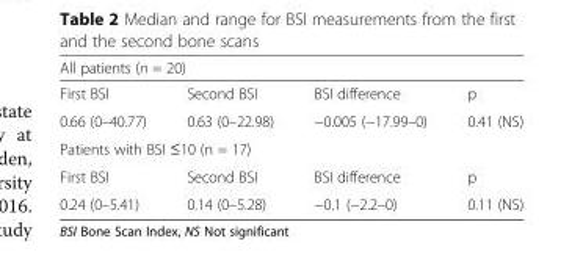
<table><thead><tr><td colspan="4">All patients (n = 20)</td></tr><tr><td>First BSI</td><td>Second BSI</td><td>BSI difference</td><td>p</td></tr></thead><tbody><tr><td>0.66 (0–40.77)</td><td>0.63 (0–22.98)</td><td>−0.005 (−17.99–0)</td><td>0.41 (NS)</td></tr><tr><td colspan="4">Patients with BSI ≤10 (n = 17)</td></tr><tr><td>First BSI</td><td>Second BSI</td><td>BSI difference</td><td>p</td></tr><tr><td>0.24 (0–5.41)</td><td>0.14 (0–5.28)</td><td>−0.1 (−2.2–0)</td><td>0.11 (NS)</td></tr></tbody></table>